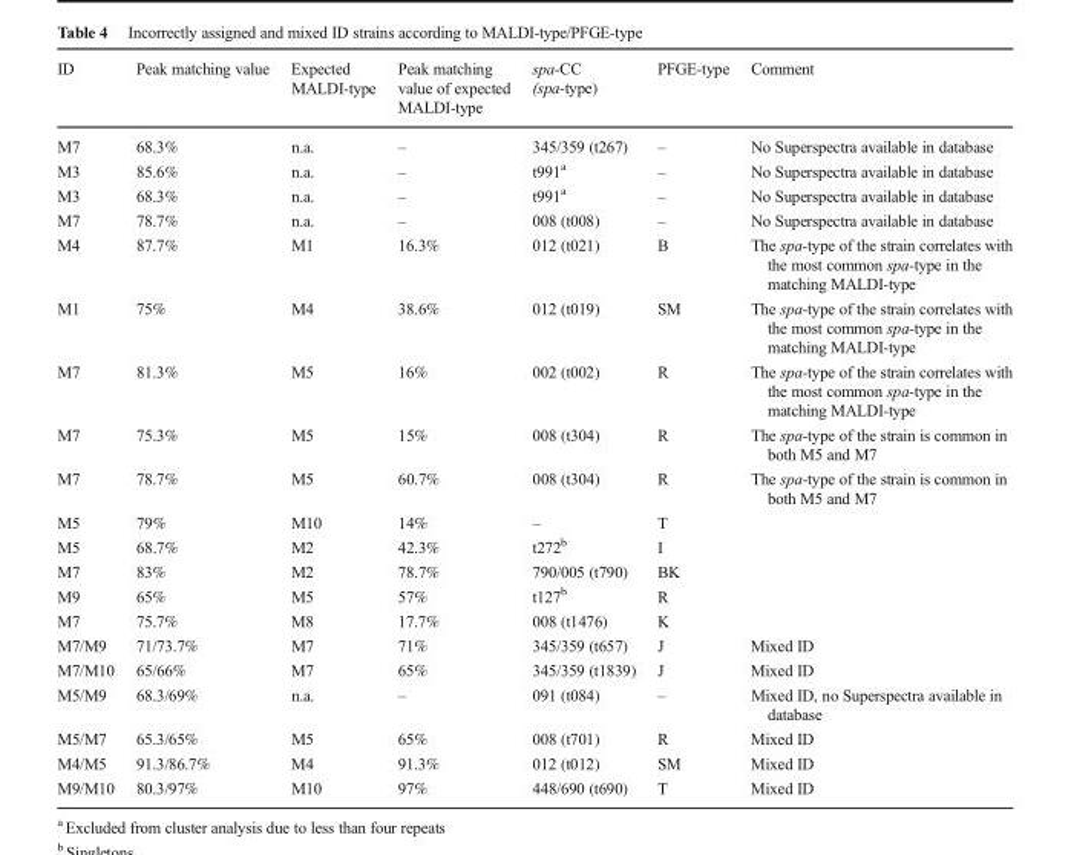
<table><thead><tr><td>ID</td><td>Peak matching value</td><td>Expected MALDI-type</td><td>Peak matching value of expected MALDI-type</td><td>spa-CC (spa-type)</td><td>PFGE-type</td><td>Comment</td></tr></thead><tbody><tr><td>M7</td><td>68.3%</td><td>n.a.</td><td>–</td><td>345/359 (t267)</td><td>–</td><td>No Superspectra available in database</td></tr><tr><td>M3</td><td>85.6%</td><td>n.a.</td><td>–</td><td>t991<sup>a</sup></td><td>–</td><td>No Superspectra available in database</td></tr><tr><td>M3</td><td>68.3%</td><td>n.a.</td><td>–</td><td>t991<sup>a</sup></td><td>–</td><td>No Superspectra available in database</td></tr><tr><td>M7</td><td>78.7%</td><td>n.a.</td><td>–</td><td>008 (t008)</td><td>–</td><td>No Superspectra available in database</td></tr><tr><td>M4</td><td>87.7%</td><td>M1</td><td>16.3%</td><td>012 (t021)</td><td>B</td><td>The spa-type of the strain correlates with the most common spa-type in the matching MALDI-type</td></tr><tr><td>M1</td><td>75%</td><td>M4</td><td>38.6%</td><td>012 (t019)</td><td>SM</td><td>The spa-type of the strain correlates with the most common spa-type in the matching MALDI-type</td></tr><tr><td>M7</td><td>81.3%</td><td>M5</td><td>16%</td><td>002 (t002)</td><td>R</td><td>The spa-type of the strain correlates with the most common spa-type in the matching MALDI-type</td></tr><tr><td>M7</td><td>75.3%</td><td>M5</td><td>15%</td><td>008 (t304)</td><td>R</td><td>The spa-type of the strain is common in both M5 and M7</td></tr><tr><td>M7</td><td>78.7%</td><td>M5</td><td>60.7%</td><td>008 (t304)</td><td>R</td><td>The spa-type of the strain is common in both M5 and M7</td></tr><tr><td>M5</td><td>79%</td><td>M10</td><td>14%</td><td>–</td><td>T</td><td></td></tr><tr><td>M5</td><td>68.7%</td><td>M2</td><td>42.3%</td><td>t272<sup>b</sup></td><td>I</td><td></td></tr><tr><td>M7</td><td>83%</td><td>M2</td><td>78.7%</td><td>790/005 (t790)</td><td>BK</td><td></td></tr><tr><td>M9</td><td>65%</td><td>M5</td><td>57%</td><td>t127<sup>b</sup></td><td>R</td><td></td></tr><tr><td>M7</td><td>75.7%</td><td>M8</td><td>17.7%</td><td>008 (t1476)</td><td>K</td><td></td></tr><tr><td>M7/M9</td><td>71/73.7%</td><td>M7</td><td>71%</td><td>345/359 (t657)</td><td>J</td><td>Mixed ID</td></tr><tr><td>M7/M10</td><td>65/66%</td><td>M7</td><td>65%</td><td>345/359 (t1839)</td><td>J</td><td>Mixed ID</td></tr><tr><td>M5/M9</td><td>68.3/69%</td><td>n.a.</td><td>–</td><td>091 (t084)</td><td>–</td><td>Mixed ID, no Superspectra available in database</td></tr><tr><td>M5/M7</td><td>65.3/65%</td><td>M5</td><td>65%</td><td>008 (t701)</td><td>R</td><td>Mixed ID</td></tr><tr><td>M4/M5</td><td>91.3/86.7%</td><td>M4</td><td>91.3%</td><td>012 (t012)</td><td>SM</td><td>Mixed ID</td></tr><tr><td>M9/M10</td><td>80.3/97%</td><td>M10</td><td>97%</td><td>448/690 (t690)</td><td>T</td><td>Mixed ID</td></tr></tbody></table>